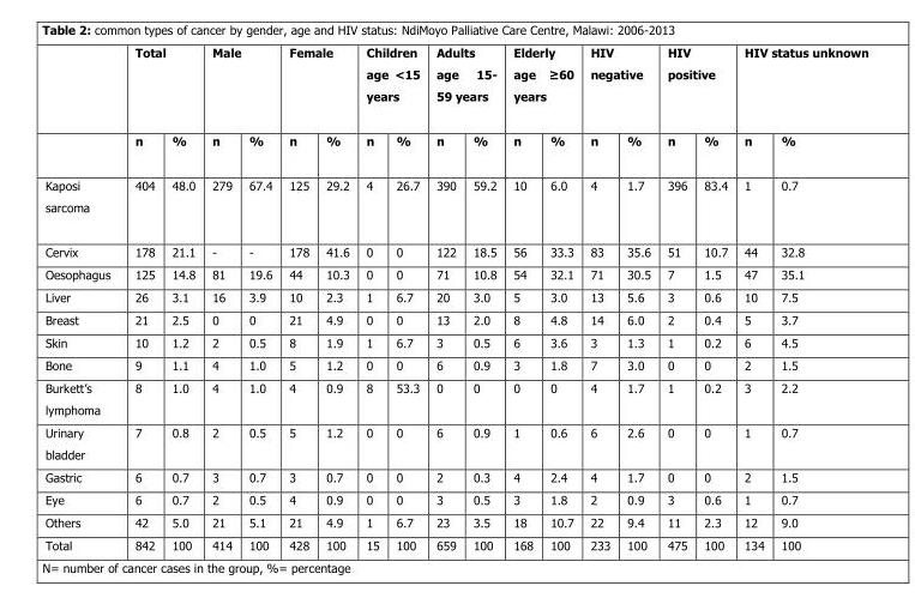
<table><thead><tr><td rowspan="2"></td><td colspan="2">Total</td><td colspan="2">Male</td><td colspan="2">Female</td><td colspan="2">Children age &lt;15 years</td><td colspan="2">Adults age 15- 59 years</td><td colspan="2">Elderly age ≥60 years</td><td colspan="2">HIV negative</td><td colspan="2">HIV positive</td><td colspan="2">HIV status unknown</td></tr><tr><td>n</td><td>%</td><td>n</td><td>%</td><td>n</td><td>%</td><td>n</td><td>%</td><td>n</td><td>%</td><td>n</td><td>%</td><td>n</td><td>%</td><td>n</td><td>%</td><td>n</td><td>%</td></tr></thead><tbody><tr><td>Kaposi sarcoma</td><td>404</td><td>48.0</td><td>279</td><td>67.4</td><td>125</td><td>29.2</td><td>4</td><td>26.7</td><td>390</td><td>59.2</td><td>10</td><td>6.0</td><td>4</td><td>1.7</td><td>396</td><td>83.4</td><td>1</td><td>0.7</td></tr><tr><td>Cervix</td><td>178</td><td>21.1</td><td>-</td><td>-</td><td>178</td><td>41.6</td><td>0</td><td>0</td><td>122</td><td>18.5</td><td>56</td><td>33.3</td><td>83</td><td>35.6</td><td>51</td><td>10.7</td><td>44</td><td>32.8</td></tr><tr><td>Oesophagus</td><td>125</td><td>14.8</td><td>81</td><td>19.6</td><td>44</td><td>10.3</td><td>0</td><td>0</td><td>71</td><td>10.8</td><td>54</td><td>32.1</td><td>71</td><td>30.5</td><td>7</td><td>1.5</td><td>47</td><td>35.1</td></tr><tr><td>Liver</td><td>26</td><td>3.1</td><td>16</td><td>3.9</td><td>10</td><td>2.3</td><td>1</td><td>6.7</td><td>20</td><td>3.0</td><td>5</td><td>3.0</td><td>13</td><td>5.6</td><td>3</td><td>0.6</td><td>10</td><td>7.5</td></tr><tr><td>Breast</td><td>21</td><td>2.5</td><td>0</td><td>0</td><td>21</td><td>4.9</td><td>0</td><td>0</td><td>13</td><td>2.0</td><td>8</td><td>4.8</td><td>14</td><td>6.0</td><td>2</td><td>0.4</td><td>5</td><td>3.7</td></tr><tr><td>Skin</td><td>10</td><td>1.2</td><td>2</td><td>0.5</td><td>8</td><td>1.9</td><td>1</td><td>6.7</td><td>3</td><td>0.5</td><td>6</td><td>3.6</td><td>3</td><td>1.3</td><td>1</td><td>0.2</td><td>6</td><td>4.5</td></tr><tr><td>Bone</td><td>9</td><td>1.1</td><td>4</td><td>1.0</td><td>5</td><td>1.2</td><td>0</td><td>0</td><td>6</td><td>0.9</td><td>3</td><td>1.8</td><td>7</td><td>3.0</td><td>0</td><td>0</td><td>2</td><td>1.5</td></tr><tr><td>Burkett’s lymphoma</td><td>8</td><td>1.0</td><td>4</td><td>1.0</td><td>4</td><td>0.9</td><td>8</td><td>53.3</td><td>0</td><td>0</td><td>0</td><td>0</td><td>4</td><td>1.7</td><td>1</td><td>0.2</td><td>3</td><td>2.2</td></tr><tr><td>Urinary bladder</td><td>7</td><td>0.8</td><td>2</td><td>0.5</td><td>5</td><td>1.2</td><td>0</td><td>0</td><td>6</td><td>0.9</td><td>1</td><td>0.6</td><td>6</td><td>2.6</td><td>0</td><td>0</td><td>1</td><td>0.7</td></tr><tr><td>Gastric</td><td>6</td><td>0.7</td><td>3</td><td>0.7</td><td>3</td><td>0.7</td><td>0</td><td>0</td><td>2</td><td>0.3</td><td>4</td><td>2.4</td><td>4</td><td>1.7</td><td>0</td><td>0</td><td>2</td><td>1.5</td></tr><tr><td>Eye</td><td>6</td><td>0.7</td><td>2</td><td>0.5</td><td>4</td><td>0.9</td><td>0</td><td>0</td><td>3</td><td>0.5</td><td>3</td><td>1.8</td><td>2</td><td>0.9</td><td>3</td><td>0.6</td><td>1</td><td>0.7</td></tr><tr><td>Others</td><td>42</td><td>5.0</td><td>21</td><td>5.1</td><td>21</td><td>4.9</td><td>1</td><td>6.7</td><td>23</td><td>3.5</td><td>18</td><td>10.7</td><td>22</td><td>9.4</td><td>11</td><td>2.3</td><td>12</td><td>9.0</td></tr><tr><td>Total</td><td>842</td><td>100</td><td>414</td><td>100</td><td>428</td><td>100</td><td>15</td><td>100</td><td>659</td><td>100</td><td>168</td><td>100</td><td>233</td><td>100</td><td>475</td><td>100</td><td>134</td><td>100</td></tr></tbody></table>